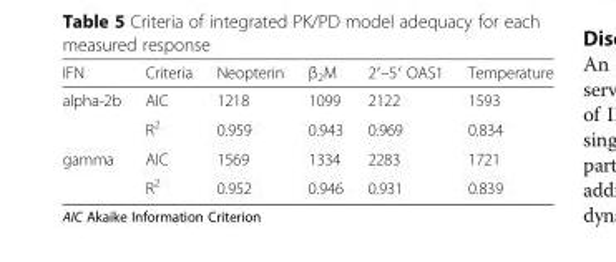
<table><thead><tr><td>IFN</td><td>Criteria</td><td>Neopterin</td><td>β<sub>2</sub>M</td><td>2′–5′ OAS1</td><td>Temperature</td></tr></thead><tbody><tr><td rowspan="2">alpha-2b</td><td>AIC</td><td>1218</td><td>1099</td><td>2122</td><td>1593</td></tr><tr><td>R<sup>2</sup></td><td>0.959</td><td>0.943</td><td>0.969</td><td>0.834</td></tr><tr><td rowspan="2">gamma</td><td>AIC</td><td>1569</td><td>1334</td><td>2283</td><td>1721</td></tr><tr><td>R<sup>2</sup></td><td>0.952</td><td>0.946</td><td>0.931</td><td>0.839</td></tr></tbody></table>